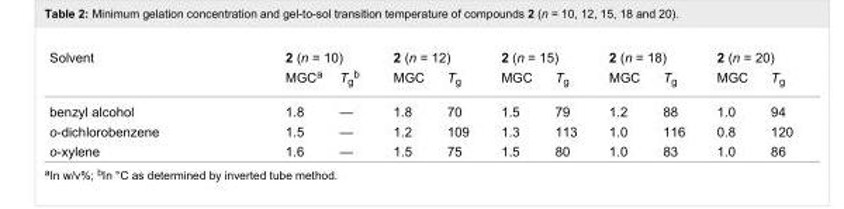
<table><tbody><tr><td rowspan="2">Solvent</td><td colspan="2">2 (n = 10)</td><td colspan="2">2 (n = 12)</td><td colspan="2">2 (n = 15)</td><td colspan="2">2 (n = 18)</td><td colspan="2">2 (n = 20)</td></tr><tr><td>MGC<sup>a</sup></td><td>T<sub>g</sub><sup>b</sup></td><td>MGC</td><td>T<sub>g</sub></td><td>MGC</td><td>T<sub>g</sub></td><td>MGC</td><td>T<sub>g</sub></td><td>MGC</td><td>T<sub>g</sub></td></tr><tr><td>benzyl alcohol</td><td>1.8</td><td>—</td><td>1.8</td><td>70</td><td>1.5</td><td>79</td><td>1.2</td><td>88</td><td>1.0</td><td>94</td></tr><tr><td>o-dichlorobenzene</td><td>1.5</td><td>—</td><td>1.2</td><td>109</td><td>1.3</td><td>113</td><td>1.0</td><td>116</td><td>0.8</td><td>120</td></tr><tr><td>o-xylene</td><td>1.6</td><td>—</td><td>1.5</td><td>75</td><td>1.5</td><td>80</td><td>1.0</td><td>83</td><td>1.0</td><td>86</td></tr></tbody></table>